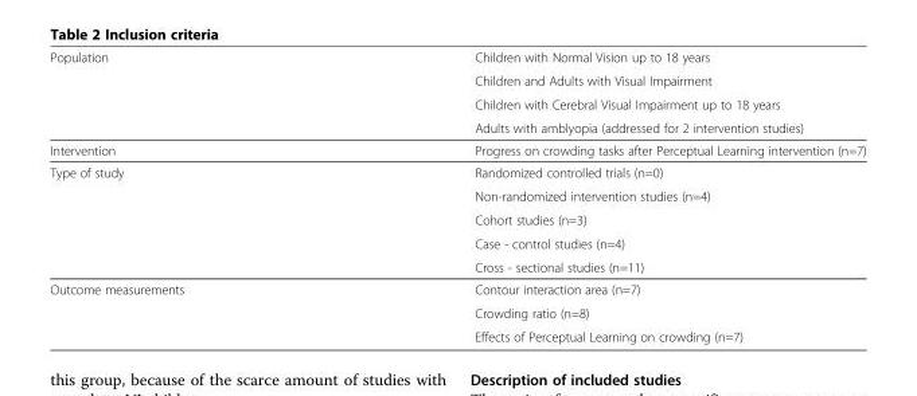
<table><tbody><tr><td rowspan="4">Population</td><td>Children with Normal Vision up to 18 years</td></tr><tr><td>Children and Adults with Visual Impairment</td></tr><tr><td>Children with Cerebral Visual Impairment up to 18 years</td></tr><tr><td>Adults with amblyopia (addressed for 2 intervention studies)</td></tr><tr><td>Intervention</td><td>Progress on crowding tasks after Perceptual Learning intervention (n=7)</td></tr><tr><td rowspan="5">Type of study</td><td>Randomized controlled trials (n=0)</td></tr><tr><td>Non-randomized intervention studies (n=4)</td></tr><tr><td>Cohort studies (n=3)</td></tr><tr><td>Case - control studies (n=4)</td></tr><tr><td>Cross - sectional studies (n=11)</td></tr><tr><td rowspan="3">Outcome measurements</td><td>Contour interaction area (n=7)</td></tr><tr><td>Crowding ratio (n=8)</td></tr><tr><td>Effects of Perceptual Learning on crowding (n=7)</td></tr></tbody></table>